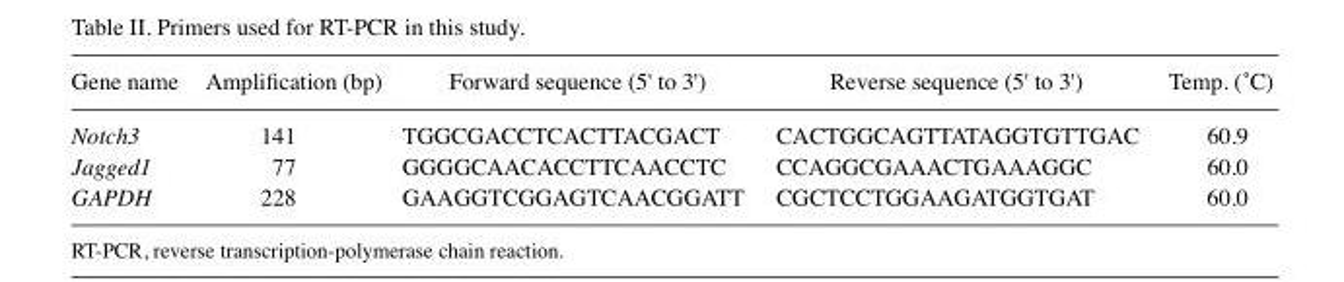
<table><thead><tr><td>Gene name</td><td>Amplification (bp)</td><td>Forward sequence (5&#x27; to 3&#x27;)</td><td>Reverse sequence (5&#x27; to 3&#x27;)</td><td>Temp. (˚C)</td></tr></thead><tbody><tr><td>Notch3</td><td>141</td><td>TGGCGACCTCACTTACGACT</td><td>CACTGGCAGTTATAGGTGTTGAC</td><td>60.9</td></tr><tr><td>Jagged1</td><td>77</td><td>GGGGCAACACCTTCAACCTC</td><td>CCAGGCGAAACTGAAAGGC</td><td>60.0</td></tr><tr><td>GAPDH</td><td>228</td><td>GAAGGTCGGAGTCAACGGATT</td><td>CGCTCCTGGAAGATGGTGAT</td><td>60.0</td></tr></tbody></table>